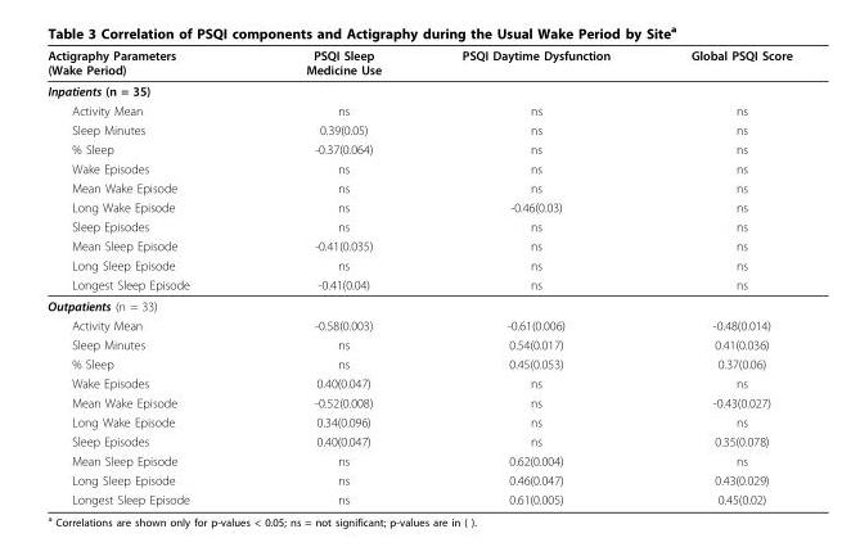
<table><thead><tr><td>Actigraphy Parameters (Wake Period)</td><td>PSQI Sleep Medicine Use</td><td>PSQI Daytime Dysfunction</td><td>Global PSQI Score</td></tr></thead><tbody><tr><td colspan="4">Inpatients (n = 35)</td></tr><tr><td>Activity Mean</td><td>ns</td><td>ns</td><td>ns</td></tr><tr><td>Sleep Minutes</td><td>0.39(0.05)</td><td>ns</td><td>ns</td></tr><tr><td>% Sleep</td><td>-0.37(0.064)</td><td>ns</td><td>ns</td></tr><tr><td>Wake Episodes</td><td>ns</td><td>ns</td><td>ns</td></tr><tr><td>Mean Wake Episode</td><td>ns</td><td>ns</td><td>ns</td></tr><tr><td>Long Wake Episode</td><td>ns</td><td>-0.46(0.03)</td><td>ns</td></tr><tr><td>Sleep Episodes</td><td>ns</td><td>ns</td><td>ns</td></tr><tr><td>Mean Sleep Episode</td><td>-0.41(0.035)</td><td>ns</td><td>ns</td></tr><tr><td>Long Sleep Episode</td><td>ns</td><td>ns</td><td>ns</td></tr><tr><td>Longest Sleep Episode</td><td>-0.41(0.04)</td><td>ns</td><td>ns</td></tr><tr><td colspan="4">Outpatients (n = 33)</td></tr><tr><td>Activity Mean</td><td>-0.58(0.003)</td><td>-0.61(0.006)</td><td>-0.48(0.014)</td></tr><tr><td>Sleep Minutes</td><td>ns</td><td>0.54(0.017)</td><td>0.41(0.036)</td></tr><tr><td>% Sleep</td><td>ns</td><td>0.45(0.053)</td><td>0.37(0.06)</td></tr><tr><td>Wake Episodes</td><td>0.40(0.047)</td><td>ns</td><td>ns</td></tr><tr><td>Mean Wake Episode</td><td>-0.52(0.008)</td><td>ns</td><td>-0.43(0.027)</td></tr><tr><td>Long Wake Episode</td><td>0.34(0.096)</td><td>ns</td><td>ns</td></tr><tr><td>Sleep Episodes</td><td>0.40(0.047)</td><td>ns</td><td>0.35(0.078)</td></tr><tr><td>Mean Sleep Episode</td><td>ns</td><td>0.62(0.004)</td><td>ns</td></tr><tr><td>Long Sleep Episode</td><td>ns</td><td>0.46(0.047)</td><td>0.43(0.029)</td></tr><tr><td>Longest Sleep Episode</td><td>ns</td><td>0.61(0.005)</td><td>0.45(0.02)</td></tr></tbody></table>